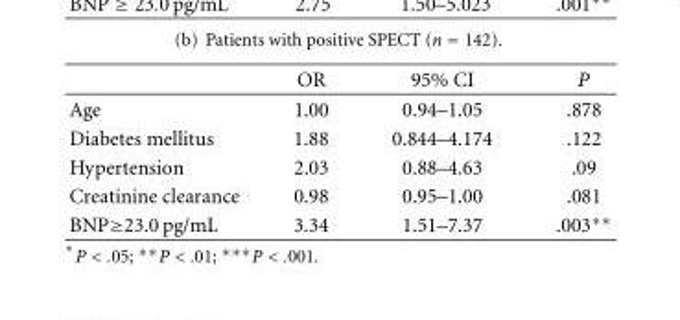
<table><thead><tr><td></td><td>OR</td><td>95% CI</td><td>P</td></tr></thead><tbody><tr><td>Age</td><td>1.00</td><td>0.94–1.05</td><td>.878</td></tr><tr><td>Diabetes mellitus</td><td>1.88</td><td>0.844–4.174</td><td>.122</td></tr><tr><td>Hypertension</td><td>2.03</td><td>0.88–4.63</td><td>.09</td></tr><tr><td>Creatinine clearance</td><td>0.98</td><td>0.95–1.00</td><td>.081</td></tr><tr><td>BNP≥23.0 pg/mL</td><td>3.34</td><td>1.51–7.37</td><td>.003∗∗</td></tr></tbody></table>